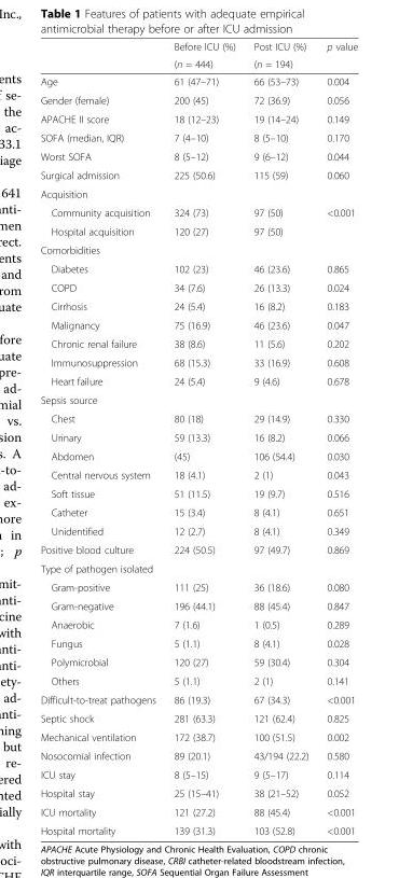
<table><thead><tr><td rowspan="2"></td><td rowspan="2">Before ICU (%) (n = 444)</td><td rowspan="2">Post ICU (%) (n = 194)</td><td rowspan="2">p value</td></tr><tr></tr></thead><tbody><tr><td>Age</td><td>61 (47–71)</td><td>66 (53–73)</td><td>0.004</td></tr><tr><td>Gender (female)</td><td>200 (45)</td><td>72 (36.9)</td><td>0.056</td></tr><tr><td>APACHE II score</td><td>18 (12–23)</td><td>19 (14–24)</td><td>0.149</td></tr><tr><td>SOFA (median, IQR)</td><td>7 (4–10)</td><td>8 (5–10)</td><td>0.170</td></tr><tr><td>Worst SOFA</td><td>8 (5–12)</td><td>9 (6–12)</td><td>0.044</td></tr><tr><td>Surgical admission</td><td>225 (50.6)</td><td>115 (59)</td><td>0.060</td></tr><tr><td colspan="4">Acquisition</td></tr><tr><td>Community acquisition</td><td>324 (73)</td><td>97 (50)</td><td rowspan="2">&lt;0.001</td></tr><tr><td>Hospital acquisition</td><td>120 (27)</td><td>97 (50)</td></tr><tr><td colspan="4">Comorbidities</td></tr><tr><td>Diabetes</td><td>102 (23)</td><td>46 (23.6)</td><td>0.865</td></tr><tr><td>COPD</td><td>34 (7.6)</td><td>26 (13.3)</td><td>0.024</td></tr><tr><td>Cirrhosis</td><td>24 (5.4)</td><td>16 (8.2)</td><td>0.183</td></tr><tr><td>Malignancy</td><td>75 (16.9)</td><td>46 (23.6)</td><td>0.047</td></tr><tr><td>Chronic renal failure</td><td>38 (8.6)</td><td>11 (5.6)</td><td>0.202</td></tr><tr><td>Immunosuppression</td><td>68 (15.3)</td><td>33 (16.9)</td><td>0.608</td></tr><tr><td>Heart failure</td><td>24 (5.4)</td><td>9 (4.6)</td><td>0.678</td></tr><tr><td colspan="4">Sepsis source</td></tr><tr><td>Chest</td><td>80 (18)</td><td>29 (14.9)</td><td>0.330</td></tr><tr><td>Urinary</td><td>59 (13.3)</td><td>16 (8.2)</td><td>0.066</td></tr><tr><td>Abdomen</td><td>(45)</td><td>106 (54.4)</td><td>0.030</td></tr><tr><td>Central nervous system</td><td>18 (4.1)</td><td>2 (1)</td><td>0.043</td></tr><tr><td>Soft tissue</td><td>51 (11.5)</td><td>19 (9.7)</td><td>0.516</td></tr><tr><td>Catheter</td><td>15 (3.4)</td><td>8 (4.1)</td><td>0.651</td></tr><tr><td>Unidentified</td><td>12 (2.7)</td><td>8 (4.1)</td><td>0.349</td></tr><tr><td>Positive blood culture</td><td>224 (50.5)</td><td>97 (49.7)</td><td>0.869</td></tr><tr><td colspan="4">Type of pathogen isolated</td></tr><tr><td>Gram-positive</td><td>111 (25)</td><td>36 (18.6)</td><td>0.080</td></tr><tr><td>Gram-negative</td><td>196 (44.1)</td><td>88 (45.4)</td><td>0.847</td></tr><tr><td>Anaerobic</td><td>7 (1.6)</td><td>1 (0.5)</td><td>0.289</td></tr><tr><td>Fungus</td><td>5 (1.1)</td><td>8 (4.1)</td><td>0.028</td></tr><tr><td>Polymicrobial</td><td>120 (27)</td><td>59 (30.4)</td><td>0.304</td></tr><tr><td>Others</td><td>5 (1.1)</td><td>2 (1)</td><td>0.141</td></tr><tr><td>Difficult-to-treat pathogens</td><td>86 (19.3)</td><td>67 (34.3)</td><td>&lt;0.001</td></tr><tr><td>Septic shock</td><td>281 (63.3)</td><td>121 (62.4)</td><td>0.825</td></tr><tr><td>Mechanical ventilation</td><td>172 (38.7)</td><td>100 (51.5)</td><td>0.002</td></tr><tr><td>Nosocomial infection</td><td>89 (20.1)</td><td>43/194 (22.2)</td><td>0.580</td></tr><tr><td>ICU stay</td><td>8 (5–15)</td><td>9 (5–17)</td><td>0.114</td></tr><tr><td>Hospital stay</td><td>25 (15–41)</td><td>38 (21–52)</td><td>0.052</td></tr><tr><td>ICU mortality</td><td>121 (27.2)</td><td>88 (45.4)</td><td>&lt;0.001</td></tr><tr><td>Hospital mortality</td><td>139 (31.3)</td><td>103 (52.8)</td><td>&lt;0.001</td></tr></tbody></table>